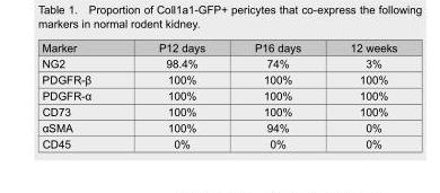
<table><thead><tr><td>Marker</td><td>P12 days</td><td>P16 days</td><td>12 weeks</td></tr></thead><tbody><tr><td>NG2</td><td>98.4%</td><td>74%</td><td>3%</td></tr><tr><td>PDGFR-β</td><td>100%</td><td>100%</td><td>100%</td></tr><tr><td>PDGFR-α</td><td>100%</td><td>100%</td><td>100%</td></tr><tr><td>CD73</td><td>100%</td><td>100%</td><td>100%</td></tr><tr><td>αSMA</td><td>100%</td><td>94%</td><td>0%</td></tr><tr><td>CD45</td><td>0%</td><td>0%</td><td>0%</td></tr></tbody></table>